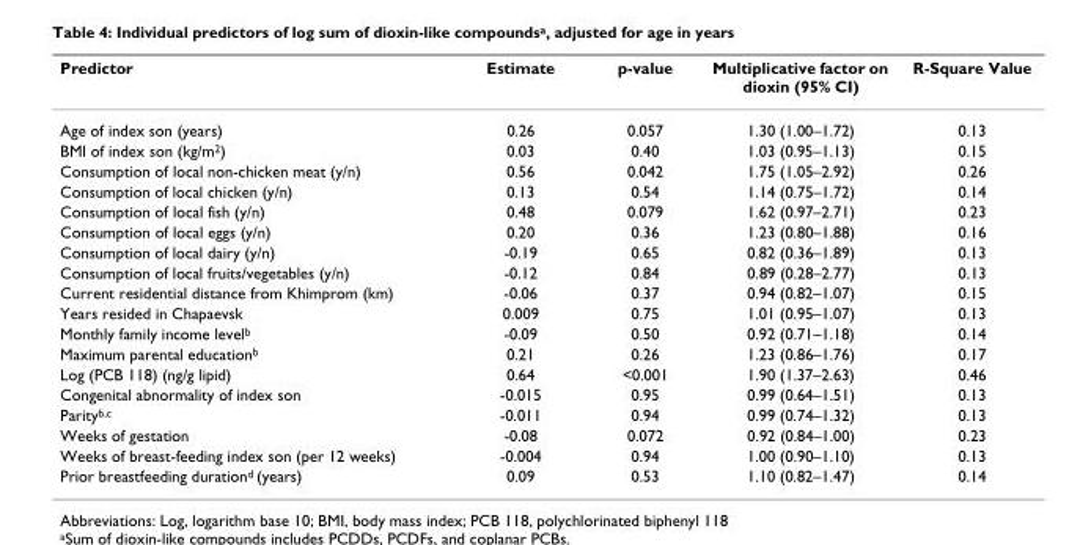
<table><thead><tr><td>Predictor</td><td>Estimate</td><td>p-value</td><td>Multiplicative factor on dioxin (95% CI)</td><td>R-Square Value</td></tr></thead><tbody><tr><td>Age of index son (years)</td><td>0.26</td><td>0.057</td><td>1.30 (1.00–1.72)</td><td>0.13</td></tr><tr><td>BMI of index son (kg/m<sup>2</sup>)</td><td>0.03</td><td>0.40</td><td>1.03 (0.95–1.13)</td><td>0.15</td></tr><tr><td>Consumption of local non-chicken meat (y/n)</td><td>0.56</td><td>0.042</td><td>1.75 (1.05–2.92)</td><td>0.26</td></tr><tr><td>Consumption of local chicken (y/n)</td><td>0.13</td><td>0.54</td><td>1.14 (0.75–1.72)</td><td>0.14</td></tr><tr><td>Consumption of local fish (y/n)</td><td>0.48</td><td>0.079</td><td>1.62 (0.97–2.71)</td><td>0.23</td></tr><tr><td>Consumption of local eggs (y/n)</td><td>0.20</td><td>0.36</td><td>1.23 (0.80–1.88)</td><td>0.16</td></tr><tr><td>Consumption of local dairy (y/n)</td><td>-0.19</td><td>0.65</td><td>0.82 (0.36–1.89)</td><td>0.13</td></tr><tr><td>Consumption of local fruits/vegetables (y/n)</td><td>-0.12</td><td>0.84</td><td>0.89 (0.28–2.77)</td><td>0.13</td></tr><tr><td>Current residential distance from Khimprom (km)</td><td>-0.06</td><td>0.37</td><td>0.94 (0.82–1.07)</td><td>0.15</td></tr><tr><td>Years resided in Chapaevsk</td><td>0.009</td><td>0.75</td><td>1.01 (0.95–1.07)</td><td>0.13</td></tr><tr><td>Monthly family income level<sup>b</sup></td><td>-0.09</td><td>0.50</td><td>0.92 (0.71–1.18)</td><td>0.14</td></tr><tr><td>Maximum parental education<sup>b</sup></td><td>0.21</td><td>0.26</td><td>1.23 (0.86–1.76)</td><td>0.17</td></tr><tr><td>Log (PCB 118) (ng/g lipid)</td><td>0.64</td><td>&lt;0.001</td><td>1.90 (1.37–2.63)</td><td>0.46</td></tr><tr><td>Congenital abnormality of index son</td><td>-0.015</td><td>0.95</td><td>0.99 (0.64–1.51)</td><td>0.13</td></tr><tr><td>Parity<sup>b,c</sup></td><td>-0.011</td><td>0.94</td><td>0.99 (0.74–1.32)</td><td>0.13</td></tr><tr><td>Weeks of gestation</td><td>-0.08</td><td>0.072</td><td>0.92 (0.84–1.00)</td><td>0.23</td></tr><tr><td>Weeks of breast-feeding index son (per 12 weeks)</td><td>-0.004</td><td>0.94</td><td>1.00 (0.90–1.10)</td><td>0.13</td></tr><tr><td>Prior breastfeeding duration<sup>d</sup> (years)</td><td>0.09</td><td>0.53</td><td>1.10 (0.82–1.47)</td><td>0.14</td></tr></tbody></table>